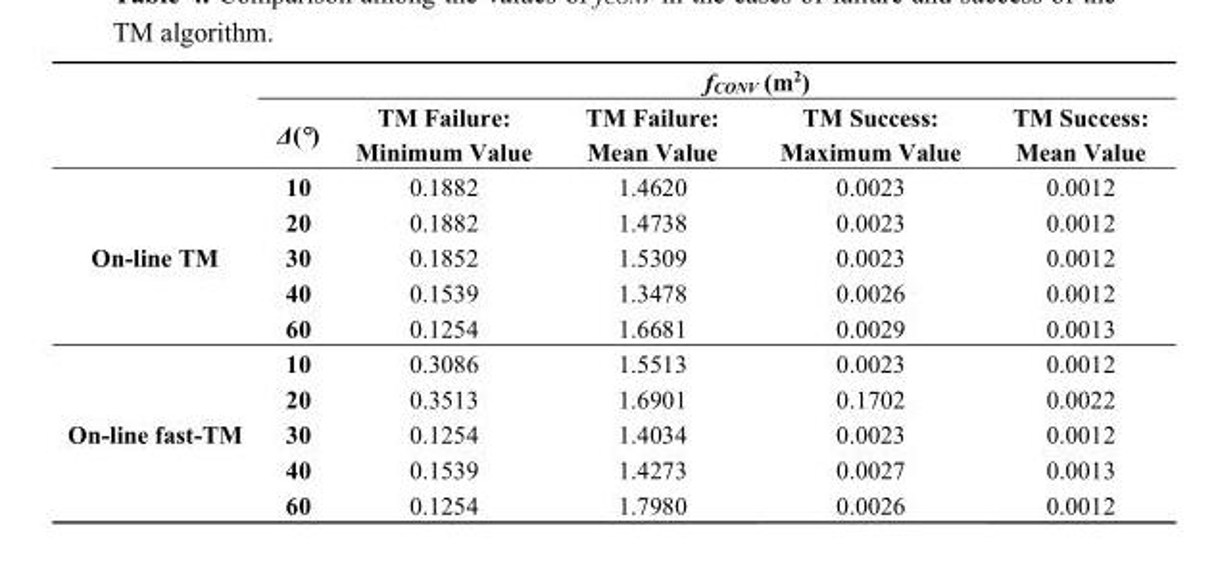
<table><thead><tr><td rowspan="2"></td><td rowspan="2">Δ(°)</td><td colspan="4">f<sub>CONV</sub> (m<sup>2</sup>)</td></tr><tr><td>TM Failure: Minimum Value</td><td>TM Failure: Mean Value</td><td>TM Success: Maximum Value</td><td>TM Success: Mean Value</td></tr></thead><tbody><tr><td rowspan="5">On-line TM</td><td>10</td><td>0.1882</td><td>1.4620</td><td>0.0023</td><td>0.0012</td></tr><tr><td>20</td><td>0.1882</td><td>1.4738</td><td>0.0023</td><td>0.0012</td></tr><tr><td>30</td><td>0.1852</td><td>1.5309</td><td>0.0023</td><td>0.0012</td></tr><tr><td>40</td><td>0.1539</td><td>1.3478</td><td>0.0026</td><td>0.0012</td></tr><tr><td>60</td><td>0.1254</td><td>1.6681</td><td>0.0029</td><td>0.0013</td></tr><tr><td rowspan="5">On-line fast-TM</td><td>10</td><td>0.3086</td><td>1.5513</td><td>0.0023</td><td>0.0012</td></tr><tr><td>20</td><td>0.3513</td><td>1.6901</td><td>0.1702</td><td>0.0022</td></tr><tr><td>30</td><td>0.1254</td><td>1.4034</td><td>0.0023</td><td>0.0012</td></tr><tr><td>40</td><td>0.1539</td><td>1.4273</td><td>0.0027</td><td>0.0013</td></tr><tr><td>60</td><td>0.1254</td><td>1.7980</td><td>0.0026</td><td>0.0012</td></tr></tbody></table>